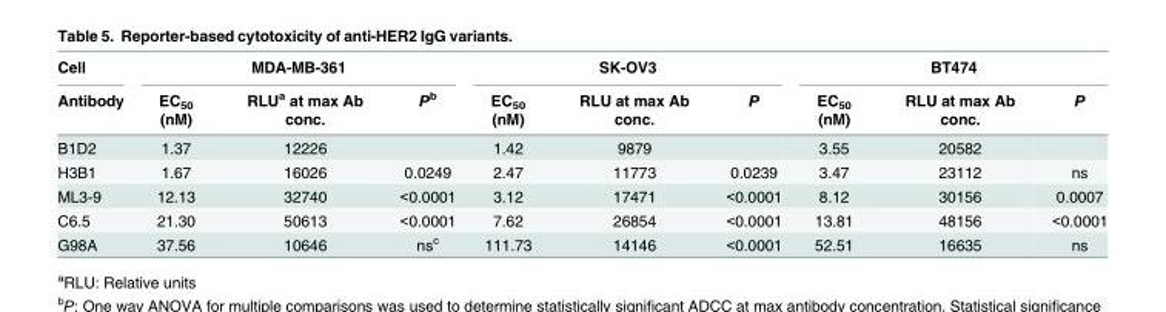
<table><thead><tr><td rowspan="2">Cell Antibody</td><td colspan="3">MDA-MB-361</td><td colspan="3">SK-OV3</td><td colspan="3">BT474</td></tr><tr><td>EC<sub>50</sub> (nM)</td><td>RLU<sup>a</sup> at max Ab conc.</td><td>P<sup>b</sup></td><td>EC<sub>50</sub> (nM)</td><td>RLU at max Ab conc.</td><td>P</td><td>EC<sub>50</sub> (nM)</td><td>RLU at max Ab conc.</td><td>P</td></tr></thead><tbody><tr><td>B1D2</td><td>1.37</td><td>12226</td><td></td><td>1.42</td><td>9879</td><td></td><td>3.55</td><td>20582</td><td></td></tr><tr><td>H3B1</td><td>1.67</td><td>16026</td><td>0.0249</td><td>2.47</td><td>11773</td><td>0.0239</td><td>3.47</td><td>23112</td><td>ns</td></tr><tr><td>ML3-9</td><td>12.13</td><td>32740</td><td>&lt;0.0001</td><td>3.12</td><td>17471</td><td>&lt;0.0001</td><td>8.12</td><td>30156</td><td>0.0007</td></tr><tr><td>C6.5</td><td>21.30</td><td>50613</td><td>&lt;0.0001</td><td>7.62</td><td>26854</td><td>&lt;0.0001</td><td>13.81</td><td>48156</td><td>&lt;0.0001</td></tr><tr><td>G98A</td><td>37.56</td><td>10646</td><td>ns<sup>c</sup></td><td>111.73</td><td>14146</td><td>&lt;0.0001</td><td>52.51</td><td>16635</td><td>ns</td></tr></tbody></table>